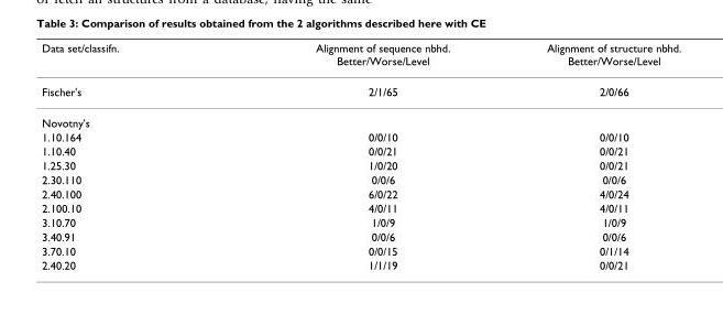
<table><thead><tr><td>Data set/classifn.</td><td>Alignment of sequence nbhd. Better/Worse/Level</td><td>Alignment of structure nbhd. Better/Worse/Level</td></tr></thead><tbody><tr><td>Fischer&#x27;s</td><td>2/1/65</td><td>2/0/66</td></tr><tr><td colspan="3">Novotny&#x27;s</td></tr><tr><td>1.10.164</td><td>0/0/10</td><td>0/0/10</td></tr><tr><td>1.10.40</td><td>0/0/21</td><td>0/0/21</td></tr><tr><td>1.25.30</td><td>1/0/20</td><td>0/0/21</td></tr><tr><td>2.30.110</td><td>0/0/6</td><td>0/0/6</td></tr><tr><td>2.40.100</td><td>6/0/22</td><td>4/0/24</td></tr><tr><td>2.100.10</td><td>4/0/11</td><td>4/0/11</td></tr><tr><td>3.10.70</td><td>1/0/9</td><td>1/0/9</td></tr><tr><td>3.40.91</td><td>0/0/6</td><td>0/0/6</td></tr><tr><td>3.70.10</td><td>0/0/15</td><td>0/1/14</td></tr><tr><td>2.40.20</td><td>1/1/19</td><td>0/0/21</td></tr></tbody></table>